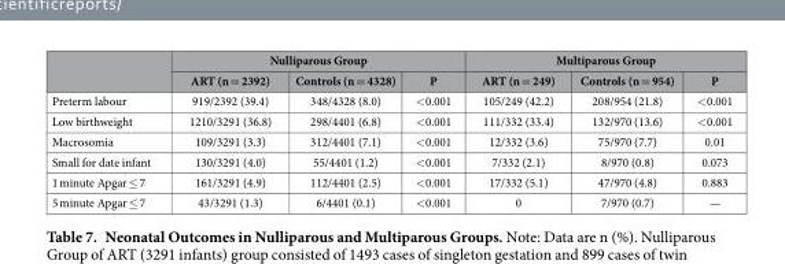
<table><thead><tr><td rowspan="2"></td><td colspan="3">Nulliparous Group</td><td colspan="3">Multiparous Group</td></tr><tr><td>ART (n = 2392)</td><td>Controls (n = 4328)</td><td>P</td><td>ART (n = 249)</td><td>Controls (n = 954)</td><td>P</td></tr></thead><tbody><tr><td>Preterm labour</td><td>919/2392 (39.4)</td><td>348/4328 (8.0)</td><td>&lt; 0.001</td><td>105/249 (42.2)</td><td>208/954 (21.8)</td><td>&lt; 0.001</td></tr><tr><td>Low birthweight</td><td>1210/3291 (36.8)</td><td>298/4401 (6.8)</td><td>&lt; 0.001</td><td>111/332 (33.4)</td><td>132/970 (13.6)</td><td>&lt; 0.001</td></tr><tr><td>Macrosomia</td><td>109/3291 (3.3)</td><td>312/4401 (7.1)</td><td>&lt; 0.001</td><td>12/332 (3.6)</td><td>75/970 (7.7)</td><td>0.01</td></tr><tr><td>Small for date infant</td><td>130/3291 (4.0)</td><td>55/4401 (1.2)</td><td>&lt; 0.001</td><td>7/332 (2.1)</td><td>8/970 (0.8)</td><td>0.073</td></tr><tr><td>1 minute Apgar ≤ 7</td><td>161/3291 (4.9)</td><td>112/4401 (2.5)</td><td>&lt; 0.001</td><td>17/332 (5.1)</td><td>47/970 (4.8)</td><td>0.883</td></tr><tr><td>5 minute Apgar ≤ 7</td><td>43/3291 (1.3)</td><td>6/4401 (0.1)</td><td>&lt; 0.001</td><td>0</td><td>7/970 (0.7)</td><td>—</td></tr></tbody></table>